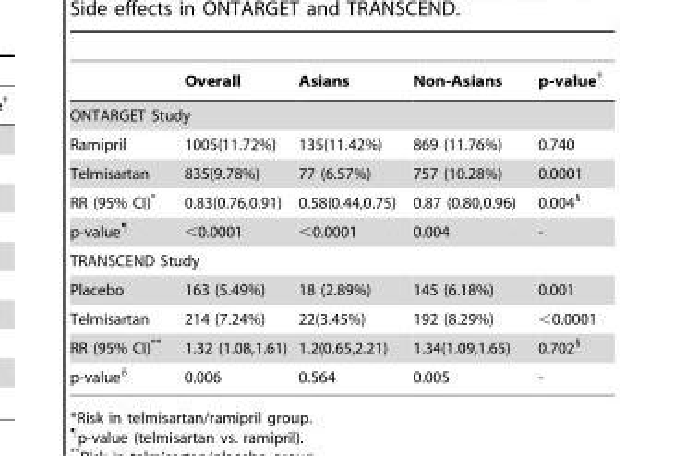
<table><thead><tr><td></td><td>Overall</td><td>Asians</td><td>Non-Asians</td><td>p-value†</td></tr></thead><tbody><tr><td colspan="5">ONTARGET Study</td></tr><tr><td>Ramipril</td><td>1005(11.72%)</td><td>135(11.42%)</td><td>869 (11.76%)</td><td>0.740</td></tr><tr><td>Telmisartan</td><td>835(9.78%)</td><td>77 (6.57%)</td><td>757 (10.28%)</td><td>0.0001</td></tr><tr><td>RR (95% CI)*</td><td>0.83(0.76,0.91)</td><td>0.58(0.44,0.75)</td><td>0.87 (0.80,0.96)</td><td>0.004§</td></tr><tr><td>p-value¶</td><td>&lt;0.0001</td><td>&lt;0.0001</td><td>0.004</td><td>-</td></tr><tr><td colspan="5">TRANSCEND Study</td></tr><tr><td>Placebo</td><td>163 (5.49%)</td><td>18 (2.89%)</td><td>145 (6.18%)</td><td>0.001</td></tr><tr><td>Telmisartan</td><td>214 (7.24%)</td><td>22(3.45%)</td><td>192 (8.29%)</td><td>&lt;0.0001</td></tr><tr><td>RR (95% CI)**</td><td>1.32 (1.08,1.61)</td><td>1.2(0.65,2.21)</td><td>1.34(1.09,1.65)</td><td>0.702§</td></tr><tr><td>p-valueδ</td><td>0.006</td><td>0.564</td><td>0.005</td><td>-</td></tr></tbody></table>